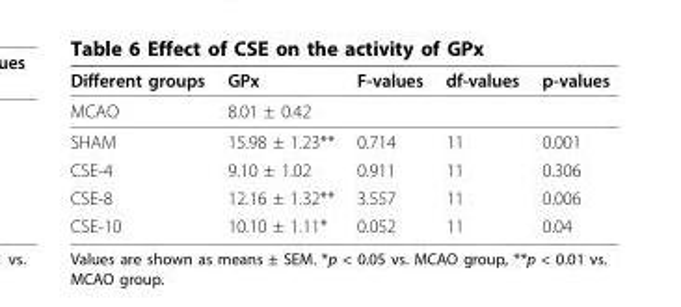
<table><thead><tr><td>Different groups</td><td>GPx</td><td>F-values</td><td>df-values</td><td>p-values</td></tr></thead><tbody><tr><td>MCAO</td><td>8.01 ± 0.42</td><td></td><td></td><td></td></tr><tr><td>SHAM</td><td>15.98 ± 1.23**</td><td>0.714</td><td>11</td><td>0.001</td></tr><tr><td>CSE-4</td><td>9.10 ± 1.02</td><td>0.911</td><td>11</td><td>0.306</td></tr><tr><td>CSE-8</td><td>12.16 ± 1.32**</td><td>3.557</td><td>11</td><td>0.006</td></tr><tr><td>CSE-10</td><td>10.10 ± 1.11*</td><td>0.052</td><td>11</td><td>0.04</td></tr></tbody></table>